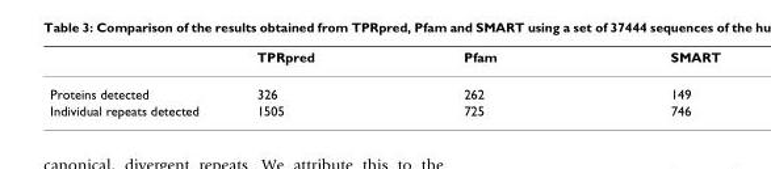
<table><thead><tr><td></td><td>TPRpred</td><td>Pfam</td><td>SMART</td></tr></thead><tbody><tr><td>Proteins detected</td><td>326</td><td>262</td><td>149</td></tr><tr><td>Individual repeats detected</td><td>1505</td><td>725</td><td>746</td></tr></tbody></table>